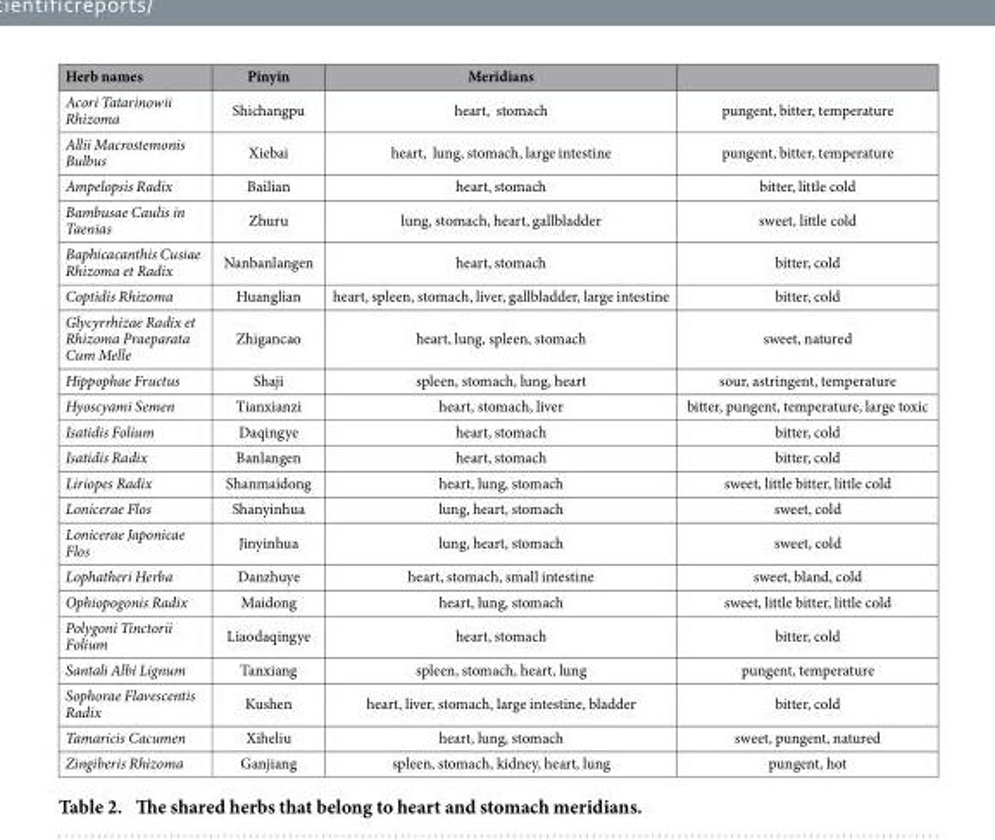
<table><thead><tr><td>Herb names</td><td>Pinyin</td><td>Meridians</td><td></td></tr></thead><tbody><tr><td>Acori Tatarinowii Rhizoma</td><td>Shichangpu</td><td>heart, stomach</td><td>pungent, bitter, temperature</td></tr><tr><td>Allii Macrostemonis Bulbus</td><td>Xiebai</td><td>heart, lung, stomach, large intestine</td><td>pungent, bitter, temperature</td></tr><tr><td>Ampelopsis Radix</td><td>Bailian</td><td>heart, stomach</td><td>bitter, little cold</td></tr><tr><td>Bambusae Caulis in Taenias</td><td>Zhuru</td><td>lung, stomach, heart, gallbladder</td><td>sweet, little cold</td></tr><tr><td>Baphicacanthis Cusiae Rhizoma et Radix</td><td>Nanbanlangen</td><td>heart, stomach</td><td>bitter, cold</td></tr><tr><td>Coptidis Rhizoma</td><td>Huanglian</td><td>heart, spleen, stomach, liver, gallbladder, large intestine</td><td>bitter, cold</td></tr><tr><td>Glycyrrhizae Radix et Rhizoma Praeparata Cum Melle</td><td>Zhigancao</td><td>heart, lung, spleen, stomach</td><td>sweet, natured</td></tr><tr><td>Hippophae Fructus</td><td>Shaji</td><td>spleen, stomach, lung, heart</td><td>sour, astringent, temperature</td></tr><tr><td>Hyoscyami Semen</td><td>Tianxianzi</td><td>heart, stomach, liver</td><td>bitter, pungent, temperature, large toxic</td></tr><tr><td>Isatidis Folium</td><td>Daqingye</td><td>heart, stomach</td><td>bitter, cold</td></tr><tr><td>Isatidis Radix</td><td>Banlangen</td><td>heart, stomach</td><td>bitter, cold</td></tr><tr><td>Liriopes Radix</td><td>Shanmaidong</td><td>heart, lung, stomach</td><td>sweet, little bitter, little cold</td></tr><tr><td>Lonicerae Flos</td><td>Shanyinhua</td><td>lung, heart, stomach</td><td>sweet, cold</td></tr><tr><td>Lonicerae Japonicae Flos</td><td>Jinyinhua</td><td>lung, heart, stomach</td><td>sweet, cold</td></tr><tr><td>Lophatheri Herba</td><td>Danzhuye</td><td>heart, stomach, small intestine</td><td>sweet, bland, cold</td></tr><tr><td>Ophiopogonis Radix</td><td>Maidong</td><td>heart, lung, stomach</td><td>sweet, little bitter, little cold</td></tr><tr><td>Polygoni Tinctorii Folium</td><td>Liaodaqingye</td><td>heart, stomach</td><td>bitter, cold</td></tr><tr><td>Santali Albi Lignum</td><td>Tanxiang</td><td>spleen, stomach, heart, lung</td><td>pungent, temperature</td></tr><tr><td>Sophorae Flavescentis Radix</td><td>Kushen</td><td>heart, liver, stomach, large intestine, bladder</td><td>bitter, cold</td></tr><tr><td>Tamaricis Cacumen</td><td>Xiheliu</td><td>heart, lung, stomach</td><td>sweet, pungent, natured</td></tr><tr><td>Zingiberis Rhizoma</td><td>Ganjiang</td><td>spleen, stomach, kidney, heart, lung</td><td>pungent, hot</td></tr></tbody></table>